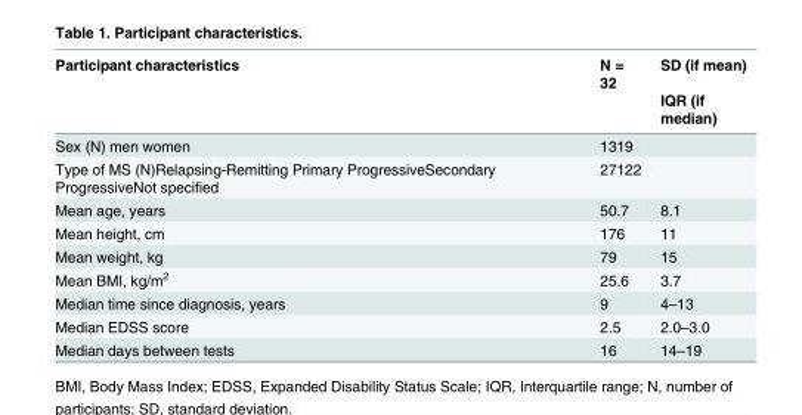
<table><thead><tr><td rowspan="2">Participant characteristics</td><td rowspan="2">N = 32</td><td rowspan="2">SD (if mean) IQR (if median)</td></tr><tr></tr></thead><tbody><tr><td>Sex (N) men women</td><td>1319</td><td></td></tr><tr><td>Type of MS (N)Relapsing-Remitting Primary ProgressiveSecondary ProgressiveNot specified</td><td>27122</td><td></td></tr><tr><td>Mean age, years</td><td>50.7</td><td>8.1</td></tr><tr><td>Mean height, cm</td><td>176</td><td>11</td></tr><tr><td>Mean weight, kg</td><td>79</td><td>15</td></tr><tr><td>Mean BMI, kg/m<sup>2</sup></td><td>25.6</td><td>3.7</td></tr><tr><td>Median time since diagnosis, years</td><td>9</td><td>4–13</td></tr><tr><td>Median EDSS score</td><td>2.5</td><td>2.0–3.0</td></tr><tr><td>Median days between tests</td><td>16</td><td>14–19</td></tr></tbody></table>